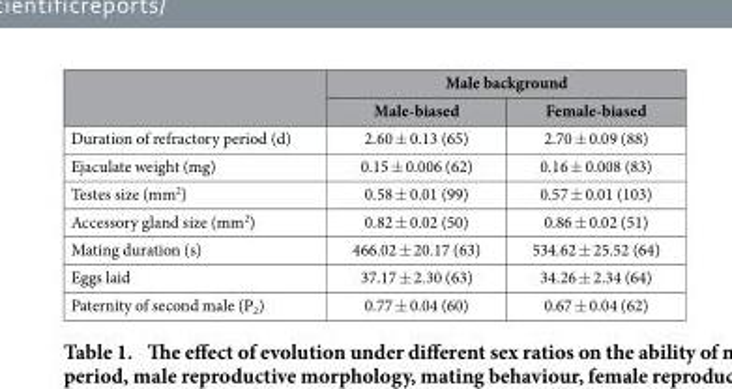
<table><thead><tr><td rowspan="2"></td><td colspan="2">Male background</td></tr><tr><td>Male-biased</td><td>Female-biased</td></tr></thead><tbody><tr><td>Duration of refractory period (d)</td><td>2.60 ± 0.13 (65)</td><td>2.70 ± 0.09 (88)</td></tr><tr><td>Ejaculate weight (mg)</td><td>0.15 ± 0.006 (62)</td><td>0.16 ± 0.008 (83)</td></tr><tr><td>Testes size (mm<sup>2</sup>)</td><td>0.58 ± 0.01 (99)</td><td>0.57 ± 0.01 (103)</td></tr><tr><td>Accessory gland size (mm<sup>2</sup>)</td><td>0.82 ± 0.02 (50)</td><td>0.86 ± 0.02 (51)</td></tr><tr><td>Mating duration (s)</td><td>466.02 ± 20.17 (63)</td><td>534.62 ± 25.52 (64)</td></tr><tr><td>Eggs laid</td><td>37.17 ± 2.30 (63)</td><td>34.26 ± 2.34 (64)</td></tr><tr><td>Paternity of second male (P<sub>2</sub>)</td><td>0.77 ± 0.04 (60)</td><td>0.67 ± 0.04 (62)</td></tr></tbody></table>